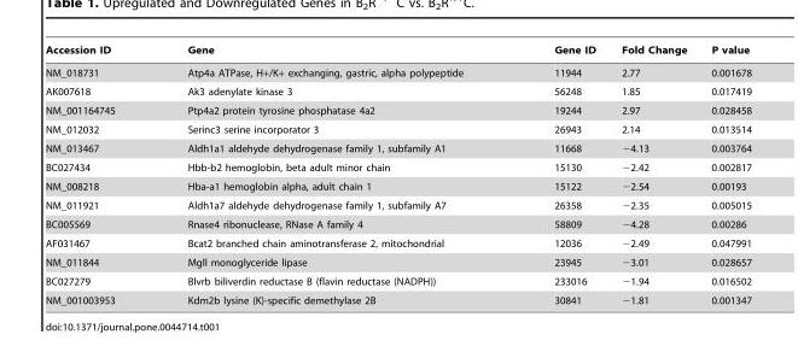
<table><thead><tr><td>Accession ID</td><td>Gene</td><td>Gene ID</td><td>Fold Change</td><td>P value</td></tr></thead><tbody><tr><td>NM_018731</td><td>Atp4a ATPase, H+/K+ exchanging, gastric, alpha polypeptide</td><td>11944</td><td>2.77</td><td>0.001678</td></tr><tr><td>AK007618</td><td>Ak3 adenylate kinase 3</td><td>56248</td><td>1.85</td><td>0.017419</td></tr><tr><td>NM_001164745</td><td>Ptp4a2 protein tyrosine phosphatase 4a2</td><td>19244</td><td>2.97</td><td>0.028458</td></tr><tr><td>NM_012032</td><td>Serinc3 serine incorporator 3</td><td>26943</td><td>2.14</td><td>0.013514</td></tr><tr><td>NM_013467</td><td>Aldh1a1 aldehyde dehydrogenase family 1, subfamily A1</td><td>11668</td><td>−4.13</td><td>0.003764</td></tr><tr><td>BC027434</td><td>Hbb-b2 hemoglobin, beta adult minor chain</td><td>15130</td><td>−2.42</td><td>0.002817</td></tr><tr><td>NM_008218</td><td>Hba-a1 hemoglobin alpha, adult chain 1</td><td>15122</td><td>−2.54</td><td>0.00193</td></tr><tr><td>NM_011921</td><td>Aldh1a7 aldehyde dehydrogenase family 1, subfamily A7</td><td>26358</td><td>−2.35</td><td>0.005015</td></tr><tr><td>BC005569</td><td>Rnase4 ribonuclease, RNase A family 4</td><td>58809</td><td>−4.28</td><td>0.00286</td></tr><tr><td>AF031467</td><td>Bcat2 branched chain aminotransferase 2, mitochondrial</td><td>12036</td><td>−2.49</td><td>0.047991</td></tr><tr><td>NM_011844</td><td>Mgll monoglyceride lipase</td><td>23945</td><td>−3.01</td><td>0.028657</td></tr><tr><td>BC027279</td><td>Blvrb biliverdin reductase B (flavin reductase (NADPH))</td><td>233016</td><td>−1.94</td><td>0.016502</td></tr><tr><td>NM_001003953</td><td>Kdm2b lysine (K)-specific demethylase 2B</td><td>30841</td><td>−1.81</td><td>0.001347</td></tr></tbody></table>